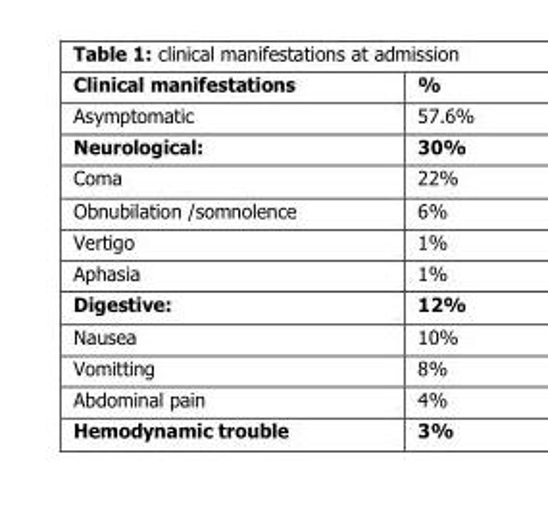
<table><thead><tr><td>Clinical manifestations</td><td>%</td></tr></thead><tbody><tr><td>Asymptomatic</td><td>57.6%</td></tr><tr><td>Neurological:</td><td>30%</td></tr><tr><td>Coma</td><td>22%</td></tr><tr><td>Obnubilation /somnolence</td><td>6%</td></tr><tr><td>Vertigo</td><td>1%</td></tr><tr><td>Aphasia</td><td>1%</td></tr><tr><td>Digestive:</td><td>12%</td></tr><tr><td>Nausea</td><td>10%</td></tr><tr><td>Vomitting</td><td>8%</td></tr><tr><td>Abdominal pain</td><td>4%</td></tr><tr><td>Hemodynamic trouble</td><td>3%</td></tr></tbody></table>